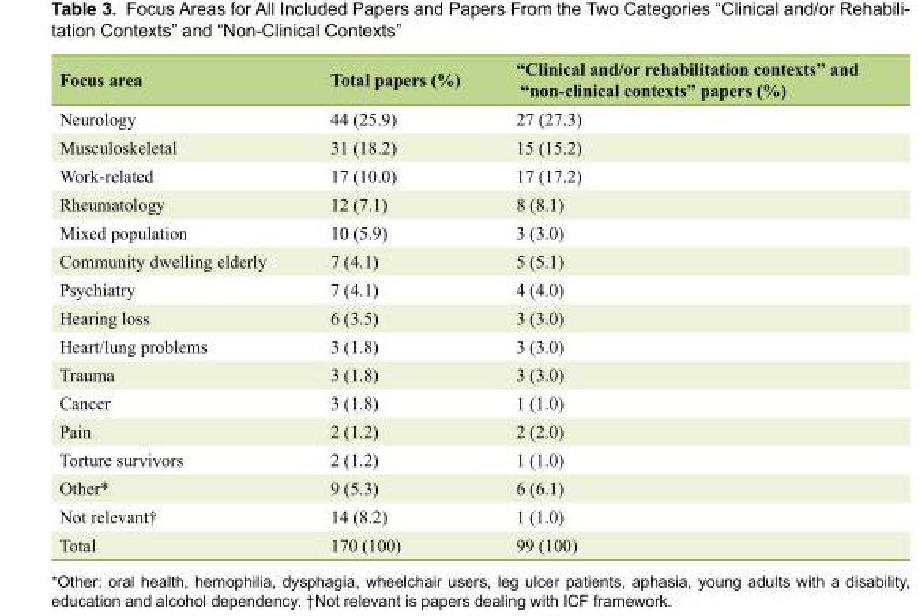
<table><thead><tr><td>Focus area</td><td>Total papers (%)</td><td>“Clinical and/or rehabilitation contexts” and “non-clinical contexts” papers (%)</td></tr></thead><tbody><tr><td>Neurology</td><td>44 (25.9)</td><td>27 (27.3)</td></tr><tr><td>Musculoskeletal</td><td>31 (18.2)</td><td>15 (15.2)</td></tr><tr><td>Work-related</td><td>17 (10.0)</td><td>17 (17.2)</td></tr><tr><td>Rheumatology</td><td>12 (7.1)</td><td>8 (8.1)</td></tr><tr><td>Mixed population</td><td>10 (5.9)</td><td>3 (3.0)</td></tr><tr><td>Community dwelling elderly</td><td>7 (4.1)</td><td>5 (5.1)</td></tr><tr><td>Psychiatry</td><td>7 (4.1)</td><td>4 (4.0)</td></tr><tr><td>Hearing loss</td><td>6 (3.5)</td><td>3 (3.0)</td></tr><tr><td>Heart/lung problems</td><td>3 (1.8)</td><td>3 (3.0)</td></tr><tr><td>Trauma</td><td>3 (1.8)</td><td>3 (3.0)</td></tr><tr><td>Cancer</td><td>3 (1.8)</td><td>1 (1.0)</td></tr><tr><td>Pain</td><td>2 (1.2)</td><td>2 (2.0)</td></tr><tr><td>Torture survivors</td><td>2 (1.2)</td><td>1 (1.0)</td></tr><tr><td>Other*</td><td>9 (5.3)</td><td>6 (6.1)</td></tr><tr><td>Not relevant†</td><td>14 (8.2)</td><td>1 (1.0)</td></tr><tr><td>Total</td><td>170 (100)</td><td>99 (100)</td></tr></tbody></table>